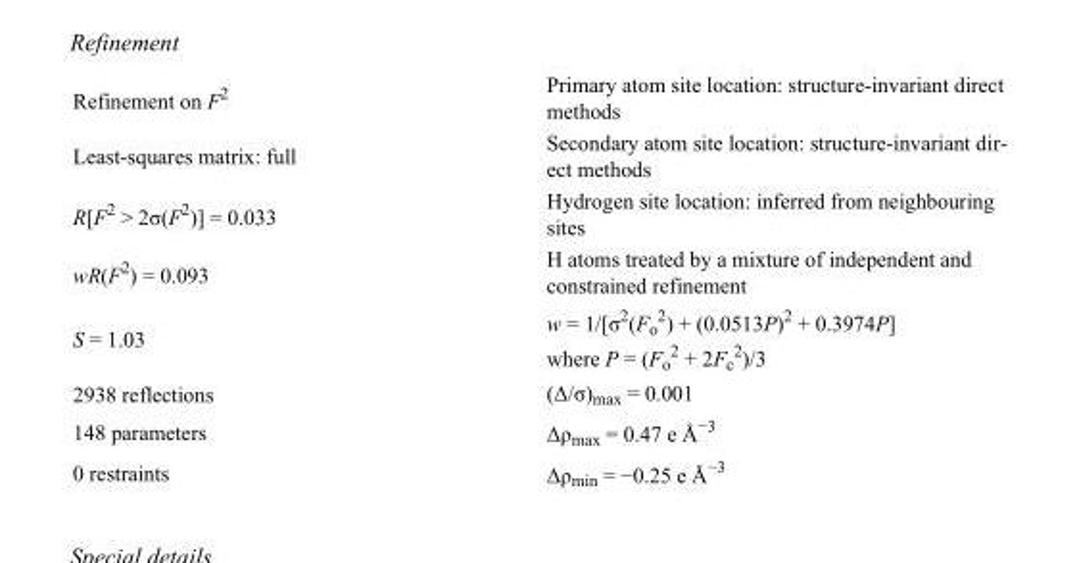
<table><tbody><tr><td>Refinement on F<sup>2</sup></td><td>Primary atom site location: structure-invariant direct methods</td></tr><tr><td>Least-squares matrix: full</td><td>Secondary atom site location: structure-invariant dir- ect methods</td></tr><tr><td>R[F<sup>2</sup> &gt; 2σ(F<sup>2</sup>)] = 0.033</td><td>Hydrogen site location: inferred from neighbouring sites</td></tr><tr><td>wR(F<sup>2</sup>) = 0.093</td><td>H atoms treated by a mixture of independent and constrained refinement</td></tr><tr><td>S = 1.03</td><td>w = 1/[σ<sup>2</sup>(F<sub>o</sub> <sup>2</sup>) + (0.0513P)<sup>2</sup> + 0.3974P] where P = (F<sub>o</sub> <sup>2</sup> + 2F<sub>c</sub> <sup>2</sup>)/3</td></tr><tr><td>2938 reflections</td><td>(Δ/σ)<sub>max</sub> = 0.001</td></tr><tr><td>148 parameters</td><td>Δρ<sub>max</sub> = 0.47 e Å<sup>−3</sup></td></tr><tr><td>0 restraints</td><td>Δρ<sub>min</sub> = −0.25 e Å<sup>−3</sup></td></tr></tbody></table>